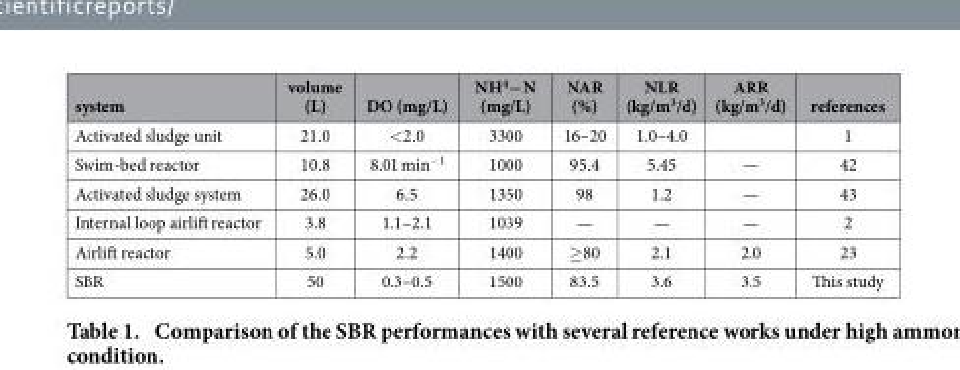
<table><thead><tr><td>system</td><td>volume (L)</td><td>DO (mg/L)</td><td>NH<sup>4</sup>−N (mg/L)</td><td>NAR (%)</td><td>NLR (kg/m<sup>3</sup>/d)</td><td>ARR (kg/m<sup>3</sup>/d)</td><td>references</td></tr></thead><tbody><tr><td>Activated sludge unit</td><td>21.0</td><td>&lt; 2.0</td><td>3300</td><td>16–20</td><td>1.0–4.0</td><td></td><td>1</td></tr><tr><td>Swim-bed reactor</td><td>10.8</td><td>8.01 min<sup>−1</sup></td><td>1000</td><td>95.4</td><td>5.45</td><td>—</td><td>42</td></tr><tr><td>Activated sludge system</td><td>26.0</td><td>6.5</td><td>1350</td><td>98</td><td>1.2</td><td>—</td><td>43</td></tr><tr><td>Internal loop airlift reactor</td><td>3.8</td><td>1.1–2.1</td><td>1039</td><td>—</td><td>—</td><td>—</td><td>2</td></tr><tr><td>Airlift reactor</td><td>5.0</td><td>2.2</td><td>1400</td><td>≥ 80</td><td>2.1</td><td>2.0</td><td>23</td></tr><tr><td>SBR</td><td>50</td><td>0.3–0.5</td><td>1500</td><td>83.5</td><td>3.6</td><td>3.5</td><td>This study</td></tr></tbody></table>